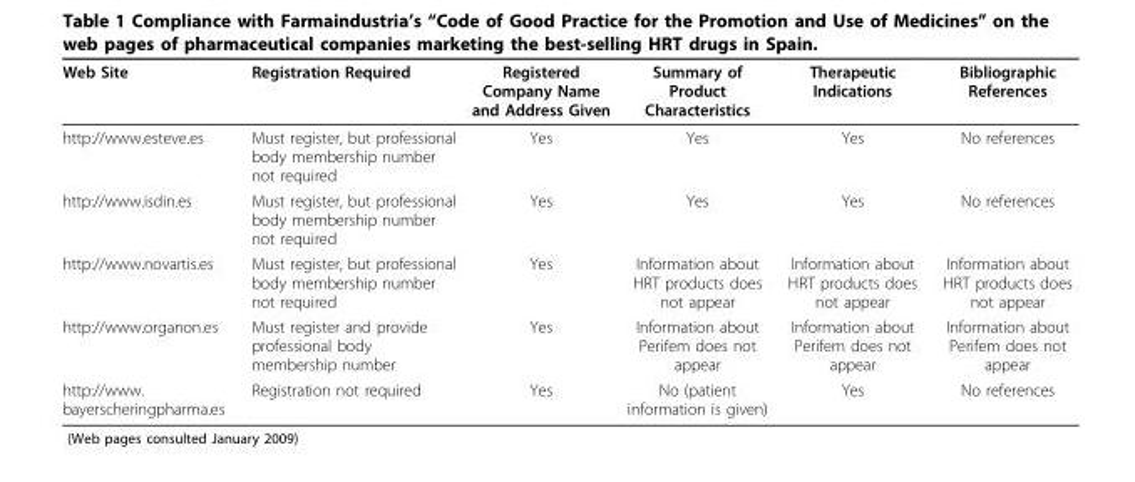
<table><thead><tr><td>Web Site</td><td>Registration Required</td><td>Registered Company Name and Address Given</td><td>Summary of Product Characteristics</td><td>Therapeutic Indications</td><td>Bibliographic References</td></tr></thead><tbody><tr><td>http://www.esteve.es</td><td>Must register, but professional body membership number not required</td><td>Yes</td><td>Yes</td><td>Yes</td><td>No references</td></tr><tr><td>http://www.isdin.es</td><td>Must register, but professional body membership number not required</td><td>Yes</td><td>Yes</td><td>Yes</td><td>No references</td></tr><tr><td>http://www.novartis.es</td><td>Must register, but professional body membership number not required</td><td>Yes</td><td>Information about HRT products does not appear</td><td>Information about HRT products does not appear</td><td>Information about HRT products does not appear</td></tr><tr><td>http://www.organon.es</td><td>Must register and provide professional body membership number</td><td>Yes</td><td>Information about Perifem does not appear</td><td>Information about Perifem does not appear</td><td>Information about Perifem does not appear</td></tr><tr><td>http://www. bayerscheringpharma.es</td><td>Registration not required</td><td>Yes</td><td>No (patient information is given)</td><td>Yes</td><td>No references</td></tr></tbody></table>